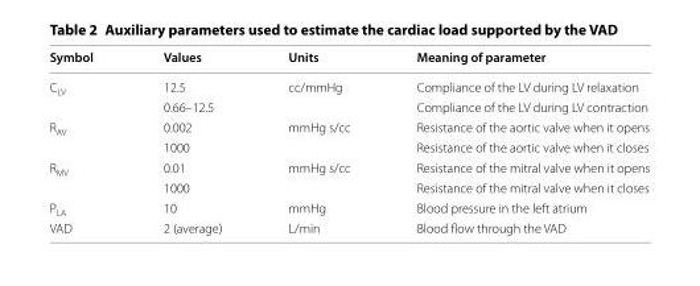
<table><thead><tr><td>Symbol</td><td>Values</td><td>Units</td><td>Meaning of parameter</td></tr></thead><tbody><tr><td rowspan="2">C<sub>LV</sub></td><td>12.5</td><td rowspan="2">cc/mmHg</td><td>Compliance of the LV during LV relaxation</td></tr><tr><td>0.66–12.5</td><td>Compliance of the LV during LV contraction</td></tr><tr><td rowspan="2">R<sub>AV</sub></td><td>0.002</td><td rowspan="2">mmHg s/cc</td><td>Resistance of the aortic valve when it opens</td></tr><tr><td>1000</td><td>Resistance of the aortic valve when it closes</td></tr><tr><td rowspan="2">R<sub>MV</sub></td><td>0.01</td><td rowspan="2">mmHg s/cc</td><td>Resistance of the mitral valve when it opens</td></tr><tr><td>1000</td><td>Resistance of the mitral valve when it closes</td></tr><tr><td>P<sub>LA</sub></td><td>10</td><td>mmHg</td><td>Blood pressure in the left atrium</td></tr><tr><td>VAD</td><td>2 (average)</td><td>L/min</td><td>Blood flow through the VAD</td></tr></tbody></table>